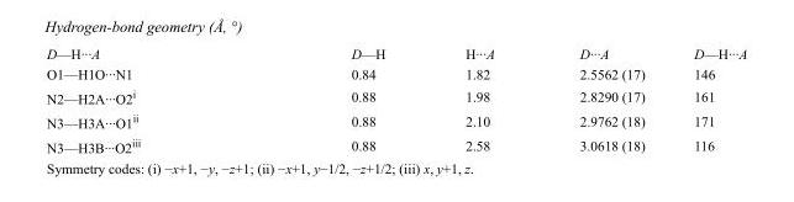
<table><tbody><tr><td>D—H···A</td><td>D—H</td><td>H···A</td><td>D···A</td><td>D—H···A</td></tr><tr><td>O1—H1O···N1</td><td>0.84</td><td>1.82</td><td>2.5562 (17)</td><td>146</td></tr><tr><td>N2—H2A···O2<sup>i</sup></td><td>0.88</td><td>1.98</td><td>2.8290 (17)</td><td>161</td></tr><tr><td>N3—H3A···O1<sup>ii</sup></td><td>0.88</td><td>2.10</td><td>2.9762 (18)</td><td>171</td></tr><tr><td>N3—H3B···O2<sup>iii</sup></td><td>0.88</td><td>2.58</td><td>3.0618 (18)</td><td>116</td></tr></tbody></table>